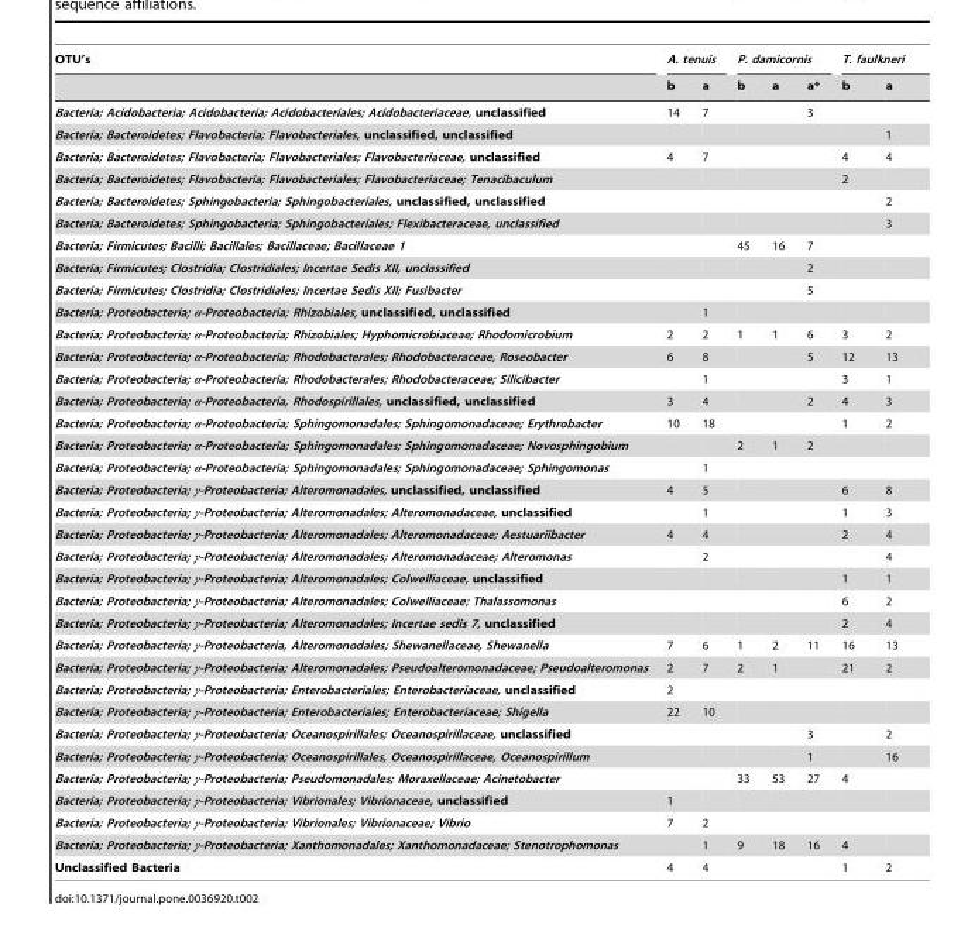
<table><thead><tr><td rowspan="2">OTU’s</td><td colspan="2">A. tenuis</td><td colspan="3">P. damicornis</td><td colspan="2">T. faulkneri</td></tr><tr><td>b</td><td>a</td><td>b</td><td>a</td><td>a*</td><td>b</td><td>a</td></tr></thead><tbody><tr><td>Bacteria; Acidobacteria; Acidobacteria; Acidobacteriales; Acidobacteriaceae, unclassified</td><td>14</td><td>7</td><td></td><td></td><td>3</td><td></td><td></td></tr><tr><td>Bacteria; Bacteroidetes; Flavobacteria; Flavobacteriales, unclassified, unclassified</td><td></td><td></td><td></td><td></td><td></td><td></td><td>1</td></tr><tr><td>Bacteria; Bacteroidetes; Flavobacteria; Flavobacteriales; Flavobacteriaceae, unclassified</td><td>4</td><td>7</td><td></td><td></td><td></td><td>4</td><td>4</td></tr><tr><td>Bacteria; Bacteroidetes; Flavobacteria; Flavobacteriales; Flavobacteriaceae; Tenacibaculum</td><td></td><td></td><td></td><td></td><td></td><td>2</td><td></td></tr><tr><td>Bacteria; Bacteroidetes; Sphingobacteria; Sphingobacteriales, unclassified, unclassified</td><td></td><td></td><td></td><td></td><td></td><td></td><td>2</td></tr><tr><td>Bacteria; Bacteroidetes; Sphingobacteria; Sphingobacteriales; Flexibacteraceae, unclassified</td><td></td><td></td><td></td><td></td><td></td><td></td><td>3</td></tr><tr><td>Bacteria; Firmicutes; Bacilli; Bacillales; Bacillaceae; Bacillaceae 1</td><td></td><td></td><td>45</td><td>16</td><td>7</td><td></td><td></td></tr><tr><td>Bacteria; Firmicutes; Clostridia; Clostridiales; Incertae Sedis XII, unclassified</td><td></td><td></td><td></td><td></td><td>2</td><td></td><td></td></tr><tr><td>Bacteria; Firmicutes; Clostridia; Clostridiales; Incertae Sedis XII; Fusibacter</td><td></td><td></td><td></td><td></td><td>5</td><td></td><td></td></tr><tr><td>Bacteria; Proteobacteria; α-Proteobacteria; Rhizobiales, unclassified, unclassified</td><td></td><td>1</td><td></td><td></td><td></td><td></td><td></td></tr><tr><td>Bacteria; Proteobacteria; α-Proteobacteria; Rhizobiales; Hyphomicrobiaceae; Rhodomicrobium</td><td>2</td><td>2</td><td>1</td><td>1</td><td>6</td><td>3</td><td>2</td></tr><tr><td>Bacteria; Proteobacteria; α-Proteobacteria; Rhodobacterales; Rhodobacteraceae, Roseobacter</td><td>6</td><td>8</td><td></td><td></td><td>5</td><td>12</td><td>13</td></tr><tr><td>Bacteria; Proteobacteria; α-Proteobacteria; Rhodobacterales; Rhodobacteraceae; Silicibacter</td><td></td><td>1</td><td></td><td></td><td></td><td>3</td><td>1</td></tr><tr><td>Bacteria; Proteobacteria; α-Proteobacteria, Rhodospirillales, unclassified, unclassified</td><td>3</td><td>4</td><td></td><td></td><td>2</td><td>4</td><td>3</td></tr><tr><td>Bacteria; Proteobacteria; α-Proteobacteria; Sphingomonadales; Sphingomonadaceae; Erythrobacter</td><td>10</td><td>18</td><td></td><td></td><td></td><td>1</td><td>2</td></tr><tr><td>Bacteria; Proteobacteria; α-Proteobacteria; Sphingomonadales; Sphingomonadaceae; Novosphingobium</td><td></td><td></td><td>2</td><td>1</td><td>2</td><td></td><td></td></tr><tr><td>Bacteria; Proteobacteria; α-Proteobacteria; Sphingomonadales; Sphingomonadaceae; Sphingomonas</td><td></td><td>1</td><td></td><td></td><td></td><td></td><td></td></tr><tr><td>Bacteria; Proteobacteria; γ-Proteobacteria; Alteromonadales, unclassified, unclassified</td><td>4</td><td>5</td><td></td><td></td><td></td><td>6</td><td>8</td></tr><tr><td>Bacteria; Proteobacteria; γ-Proteobacteria; Alteromonadales; Alteromonadaceae, unclassified</td><td></td><td>1</td><td></td><td></td><td></td><td>1</td><td>3</td></tr><tr><td>Bacteria; Proteobacteria; γ-Proteobacteria; Alteromonadales; Alteromonadaceae; Aestuariibacter</td><td>4</td><td>4</td><td></td><td></td><td></td><td>2</td><td>4</td></tr><tr><td>Bacteria; Proteobacteria; γ-Proteobacteria; Alteromonadales; Alteromonadaceae; Alteromonas</td><td></td><td>2</td><td></td><td></td><td></td><td></td><td>4</td></tr><tr><td>Bacteria; Proteobacteria; γ-Proteobacteria; Alteromonadales; Colwelliaceae, unclassified</td><td></td><td></td><td></td><td></td><td></td><td>1</td><td>1</td></tr><tr><td>Bacteria; Proteobacteria; γ-Proteobacteria; Alteromonadales; Colwelliaceae; Thalassomonas</td><td></td><td></td><td></td><td></td><td></td><td>6</td><td>2</td></tr><tr><td>Bacteria; Proteobacteria; γ-Proteobacteria; Alteromonadales; Incertae sedis 7, unclassified</td><td></td><td></td><td></td><td></td><td></td><td>2</td><td>4</td></tr><tr><td>Bacteria; Proteobacteria; γ-Proteobacteria, Alteromonodales; Shewanellaceae, Shewanella</td><td>7</td><td>6</td><td>1</td><td>2</td><td>11</td><td>16</td><td>13</td></tr><tr><td>Bacteria; Proteobacteria; γ-Proteobacteria; Alteromonadales; Pseudoalteromonadaceae; Pseudoalteromonas</td><td>2</td><td>7</td><td>2</td><td>1</td><td></td><td>21</td><td>2</td></tr><tr><td>Bacteria; Proteobacteria; γ-Proteobacteria; Enterobacteriales; Enterobacteriaceae, unclassified</td><td>2</td><td></td><td></td><td></td><td></td><td></td><td></td></tr><tr><td>Bacteria; Proteobacteria; γ-Proteobacteria; Enterobacteriales; Enterobacteriaceae; Shigella</td><td>22</td><td>10</td><td></td><td></td><td></td><td></td><td></td></tr><tr><td>Bacteria; Proteobacteria; γ-Proteobacteria; Oceanospirillales; Oceanospirillaceae, unclassified</td><td></td><td></td><td></td><td></td><td>3</td><td></td><td>2</td></tr><tr><td>Bacteria; Proteobacteria; γ-Proteobacteria; Oceanospirillales, Oceanospirillaceae, Oceanospirillum</td><td></td><td></td><td></td><td></td><td>1</td><td></td><td>16</td></tr><tr><td>Bacteria; Proteobacteria; γ-Proteobacteria; Pseudomonadales; Moraxellaceae; Acinetobacter</td><td></td><td></td><td>33</td><td>53</td><td>27</td><td>4</td><td></td></tr><tr><td>Bacteria; Proteobacteria; γ-Proteobacteria; Vibrionales; Vibrionaceae, unclassified</td><td>1</td><td></td><td></td><td></td><td></td><td></td><td></td></tr><tr><td>Bacteria; Proteobacteria; γ-Proteobacteria; Vibrionales; Vibrionaceae; Vibrio</td><td>7</td><td>2</td><td></td><td></td><td></td><td></td><td></td></tr><tr><td>Bacteria; Proteobacteria; γ-Proteobacteria; Xanthomonadales; Xanthomonadaceae; Stenotrophomonas</td><td></td><td>1</td><td>9</td><td>18</td><td>16</td><td>4</td><td></td></tr><tr><td>Unclassified Bacteria</td><td>4</td><td>4</td><td></td><td></td><td></td><td>1</td><td>2</td></tr></tbody></table>